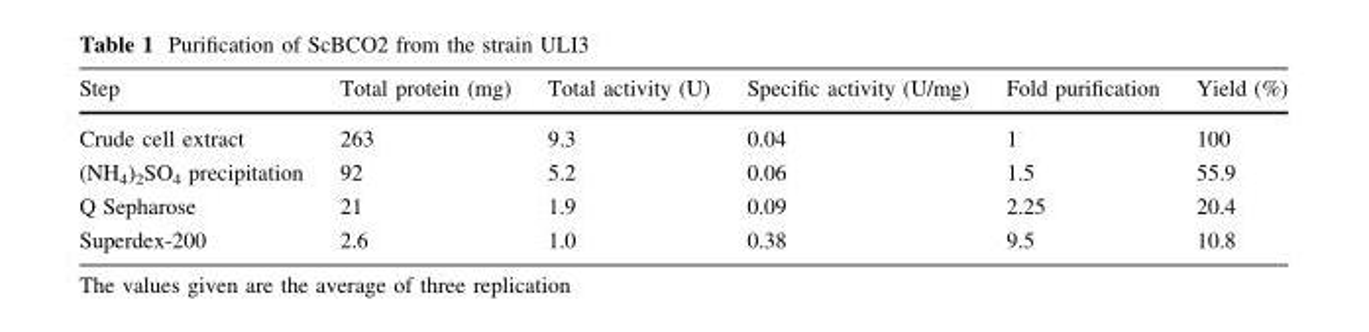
<table><thead><tr><td>Step</td><td>Total protein (mg)</td><td>Total activity (U)</td><td>Specific activity (U/mg)</td><td>Fold purification</td><td>Yield (%)</td></tr></thead><tbody><tr><td>Crude cell extract</td><td>263</td><td>9.3</td><td>0.04</td><td>1</td><td>100</td></tr><tr><td>(NH<sub>4</sub>)<sub>2</sub>SO<sub>4</sub> precipitation</td><td>92</td><td>5.2</td><td>0.06</td><td>1.5</td><td>55.9</td></tr><tr><td>Q Sepharose</td><td>21</td><td>1.9</td><td>0.09</td><td>2.25</td><td>20.4</td></tr><tr><td>Superdex-200</td><td>2.6</td><td>1.0</td><td>0.38</td><td>9.5</td><td>10.8</td></tr></tbody></table>